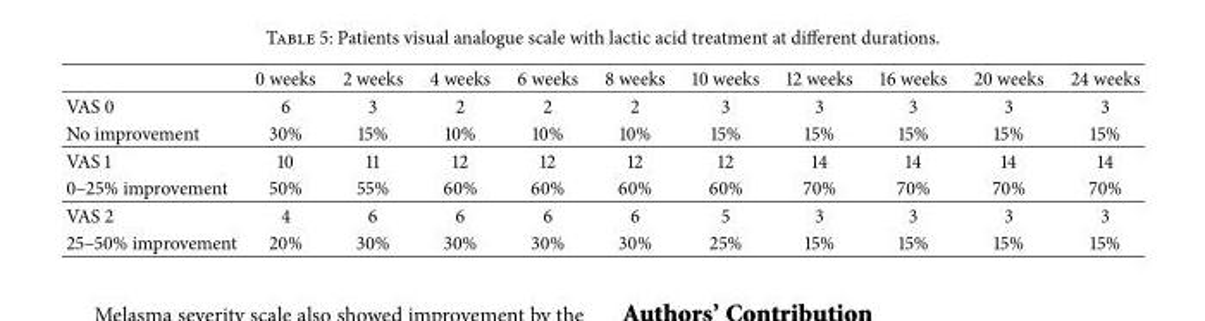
<table><thead><tr><td></td><td>0 weeks</td><td>2 weeks</td><td>4 weeks</td><td>6 weeks</td><td>8 weeks</td><td>10 weeks</td><td>12 weeks</td><td>16 weeks</td><td>20 weeks</td><td>24 weeks</td></tr></thead><tbody><tr><td>VAS 0</td><td>6</td><td>3</td><td>2</td><td>2</td><td>2</td><td>3</td><td>3</td><td>3</td><td>3</td><td>3</td></tr><tr><td>No improvement</td><td>30%</td><td>15%</td><td>10%</td><td>10%</td><td>10%</td><td>15%</td><td>15%</td><td>15%</td><td>15%</td><td>15%</td></tr><tr><td>VAS 1</td><td>10</td><td>11</td><td>12</td><td>12</td><td>12</td><td>12</td><td>14</td><td>14</td><td>14</td><td>14</td></tr><tr><td>0–25% improvement</td><td>50%</td><td>55%</td><td>60%</td><td>60%</td><td>60%</td><td>60%</td><td>70%</td><td>70%</td><td>70%</td><td>70%</td></tr><tr><td>VAS 2</td><td>4</td><td>6</td><td>6</td><td>6</td><td>6</td><td>5</td><td>3</td><td>3</td><td>3</td><td>3</td></tr><tr><td>25–50% improvement</td><td>20%</td><td>30%</td><td>30%</td><td>30%</td><td>30%</td><td>25%</td><td>15%</td><td>15%</td><td>15%</td><td>15%</td></tr></tbody></table>